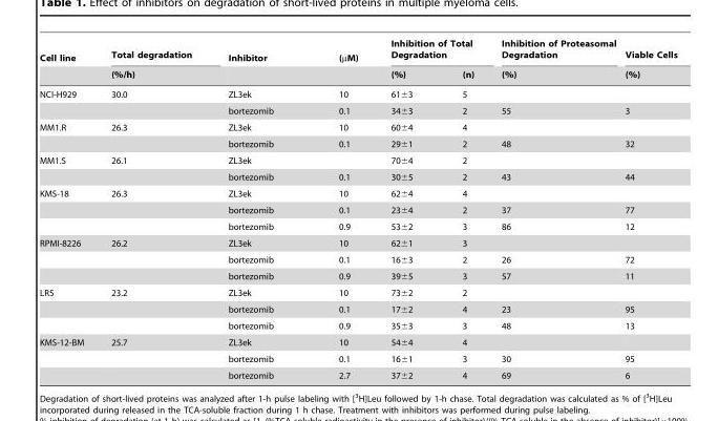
<table><thead><tr><td rowspan="2">Cell line</td><td rowspan="2">Total degradation (%/h)</td><td rowspan="2">Inhibitor</td><td rowspan="2">(µM)</td><td colspan="2">Inhibition of Total Degradation</td><td rowspan="2">Inhibition of Proteasomal Degradation (%)</td><td rowspan="2">Viable Cells (%)</td></tr><tr><td>(%)</td><td>(n)</td></tr></thead><tbody><tr><td rowspan="2">NCI-H929</td><td>30.0</td><td>ZL3ek</td><td>10</td><td>61±3</td><td>5</td><td></td><td></td></tr><tr><td></td><td>bortezomib</td><td>0.1</td><td>34±3</td><td>2</td><td>55</td><td>3</td></tr><tr><td rowspan="2">MM1.R</td><td>26.3</td><td>ZL3ek</td><td>10</td><td>60±4</td><td>4</td><td></td><td></td></tr><tr><td></td><td>bortezomib</td><td>0.1</td><td>29±1</td><td>2</td><td>48</td><td>32</td></tr><tr><td rowspan="2">MM1.S</td><td>26.1</td><td>ZL3ek</td><td></td><td>70±4</td><td>2</td><td></td><td></td></tr><tr><td></td><td>bortezomib</td><td>0.1</td><td>30±5</td><td>2</td><td>43</td><td>44</td></tr><tr><td rowspan="3">KMS-18</td><td>26.3</td><td>ZL3ek</td><td>10</td><td>62±4</td><td>4</td><td></td><td></td></tr><tr><td></td><td>bortezomib</td><td>0.1</td><td>23±4</td><td>2</td><td>37</td><td>77</td></tr><tr><td></td><td>bortezomib</td><td>0.9</td><td>53±2</td><td>3</td><td>86</td><td>12</td></tr><tr><td rowspan="3">RPMI-8226</td><td>26.2</td><td>ZL3ek</td><td>10</td><td>62±1</td><td>3</td><td></td><td></td></tr><tr><td></td><td>bortezomib</td><td>0.1</td><td>16±3</td><td>2</td><td>26</td><td>72</td></tr><tr><td></td><td>bortezomib</td><td>0.9</td><td>39±5</td><td>3</td><td>57</td><td>11</td></tr><tr><td rowspan="3">LR5</td><td>23.2</td><td>ZL3ek</td><td>10</td><td>73±2</td><td>2</td><td></td><td></td></tr><tr><td></td><td>bortezomib</td><td>0.1</td><td>17±2</td><td>4</td><td>23</td><td>95</td></tr><tr><td></td><td>bortezomib</td><td>0.9</td><td>35±3</td><td>3</td><td>48</td><td>13</td></tr><tr><td rowspan="3">KMS-12-BM</td><td>25.7</td><td>ZL3ek</td><td>10</td><td>54±4</td><td>4</td><td></td><td></td></tr><tr><td></td><td>bortezomib</td><td>0.1</td><td>16±1</td><td>3</td><td>30</td><td>95</td></tr><tr><td></td><td>bortezomib</td><td>2.7</td><td>37±2</td><td>4</td><td>69</td><td>6</td></tr></tbody></table>